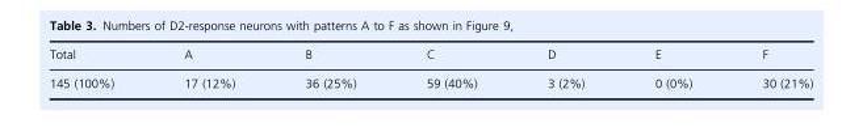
<table><thead><tr><td>Total</td><td>A</td><td>B</td><td>C</td><td>D</td><td>E</td><td>F</td></tr></thead><tbody><tr><td>145 (100%)</td><td>17 (12%)</td><td>36 (25%)</td><td>59 (40%)</td><td>3 (2%)</td><td>0 (0%)</td><td>30 (21%)</td></tr></tbody></table>